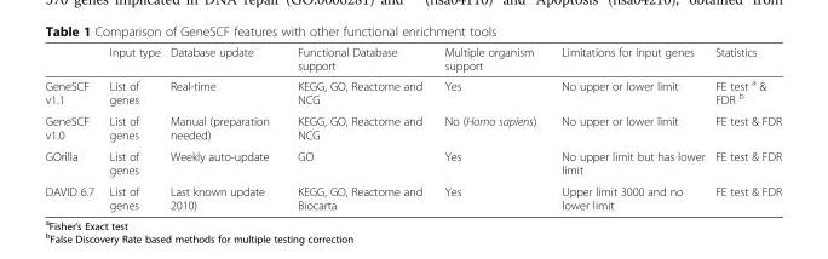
<table><thead><tr><td></td><td>Input type</td><td>Database update</td><td>Functional Database support</td><td>Multiple organism support</td><td>Limitations for input genes</td><td>Statistics</td></tr></thead><tbody><tr><td>GeneSCF v1.1</td><td>List of genes</td><td>Real-time</td><td>KEGG, GO, Reactome and NCG</td><td>Yes</td><td>No upper or lower limit</td><td>FE test <sup>a</sup> &amp; FDR <sup>b</sup></td></tr><tr><td>GeneSCF v1.0</td><td>List of genes</td><td>Manual (preparation needed)</td><td>KEGG, GO, Reactome and NCG</td><td>No (Homo sapiens)</td><td>No upper or lower limit</td><td>FE test &amp; FDR</td></tr><tr><td>GOrilla</td><td>List of genes</td><td>Weekly auto-update</td><td>GO</td><td>Yes</td><td>No upper limit but has lower limit</td><td>FE test &amp; FDR</td></tr><tr><td>DAVID 6.7</td><td>List of genes</td><td>Last known update 2010)</td><td>KEGG, GO, Reactome and Biocarta</td><td>Yes</td><td>Upper limit 3000 and no lower limit</td><td>FE test &amp; FDR</td></tr></tbody></table>